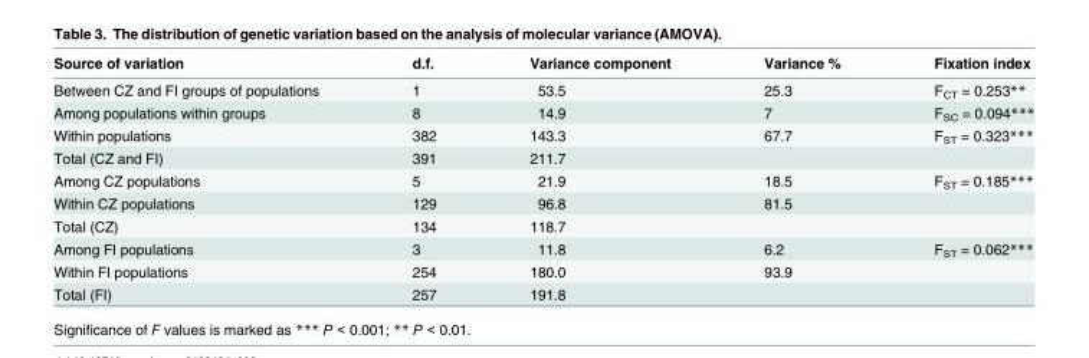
<table><thead><tr><td>Source of variation</td><td>d.f.</td><td>Variance component</td><td>Variance %</td><td>Fixation index</td></tr></thead><tbody><tr><td>Between CZ and FI groups of populations</td><td>1</td><td>53.5</td><td>25.3</td><td>F<sub>CT</sub> = 0.253**</td></tr><tr><td>Among populations within groups</td><td>8</td><td>14.9</td><td>7</td><td>F<sub>SC</sub> = 0.094***</td></tr><tr><td>Within populations</td><td>382</td><td>143.3</td><td>67.7</td><td>F<sub>ST</sub> = 0.323***</td></tr><tr><td>Total (CZ and FI)</td><td>391</td><td>211.7</td><td></td><td></td></tr><tr><td>Among CZ populations</td><td>5</td><td>21.9</td><td>18.5</td><td>F<sub>ST</sub> = 0.185***</td></tr><tr><td>Within CZ populations</td><td>129</td><td>96.8</td><td>81.5</td><td></td></tr><tr><td>Total (CZ)</td><td>134</td><td>118.7</td><td></td><td></td></tr><tr><td>Among FI populations</td><td>3</td><td>11.8</td><td>6.2</td><td>F<sub>ST</sub> = 0.062***</td></tr><tr><td>Within FI populations</td><td>254</td><td>180.0</td><td>93.9</td><td></td></tr><tr><td>Total (FI)</td><td>257</td><td>191.8</td><td></td><td></td></tr></tbody></table>